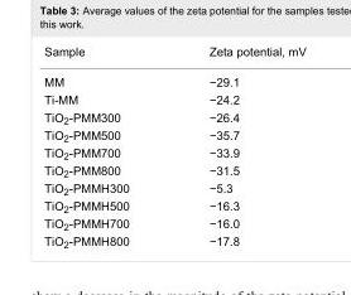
<table><tbody><tr><td>Sample</td><td>Zeta potential, mV</td></tr><tr><td>ММ</td><td>−29.1</td></tr><tr><td>Ti-MM</td><td>−24.2</td></tr><tr><td>TiO<sub>2</sub>-PMM300</td><td>−26.4</td></tr><tr><td>TiO<sub>2</sub>-PMM500</td><td>−35.7</td></tr><tr><td>TiO<sub>2</sub>-PMM700</td><td>−33.9</td></tr><tr><td>TiO<sub>2</sub>-PMM800</td><td>−31.5</td></tr><tr><td>TiO<sub>2</sub>-PMMH300</td><td>−5.3</td></tr><tr><td>TiO<sub>2</sub>-PMMH500</td><td>−16.3</td></tr><tr><td>TiO<sub>2</sub>-PMMH700</td><td>−16.0</td></tr><tr><td>TiO<sub>2</sub>-PMMH800</td><td>−17.8</td></tr></tbody></table>